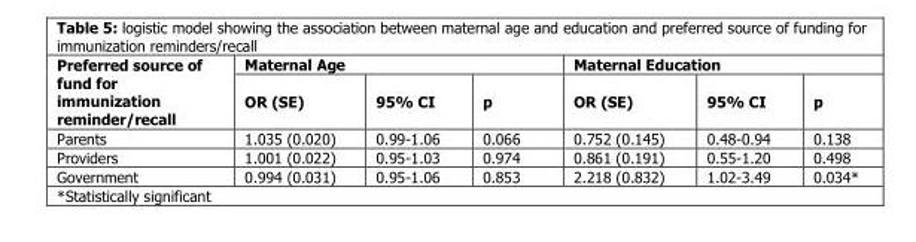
<table><thead><tr><td rowspan="2">Preferred source of fund for immunization reminder/recall</td><td colspan="3">Maternal Age</td><td colspan="3">Maternal Education</td></tr><tr><td>OR (SE)</td><td>95% CI</td><td>p</td><td>OR (SE)</td><td>95% CI</td><td>p</td></tr></thead><tbody><tr><td>Parents</td><td>1.035 (0.020)</td><td>0.99-1.06</td><td>0.066</td><td>0.752 (0.145)</td><td>0.48-0.94</td><td>0.138</td></tr><tr><td>Providers</td><td>1.001 (0.022)</td><td>0.95-1.03</td><td>0.974</td><td>0.861 (0.191)</td><td>0.55-1.20</td><td>0.498</td></tr><tr><td>Government</td><td>0.994 (0.031)</td><td>0.95-1.06</td><td>0.853</td><td>2.218 (0.832)</td><td>1.02-3.49</td><td>0.034*</td></tr></tbody></table>